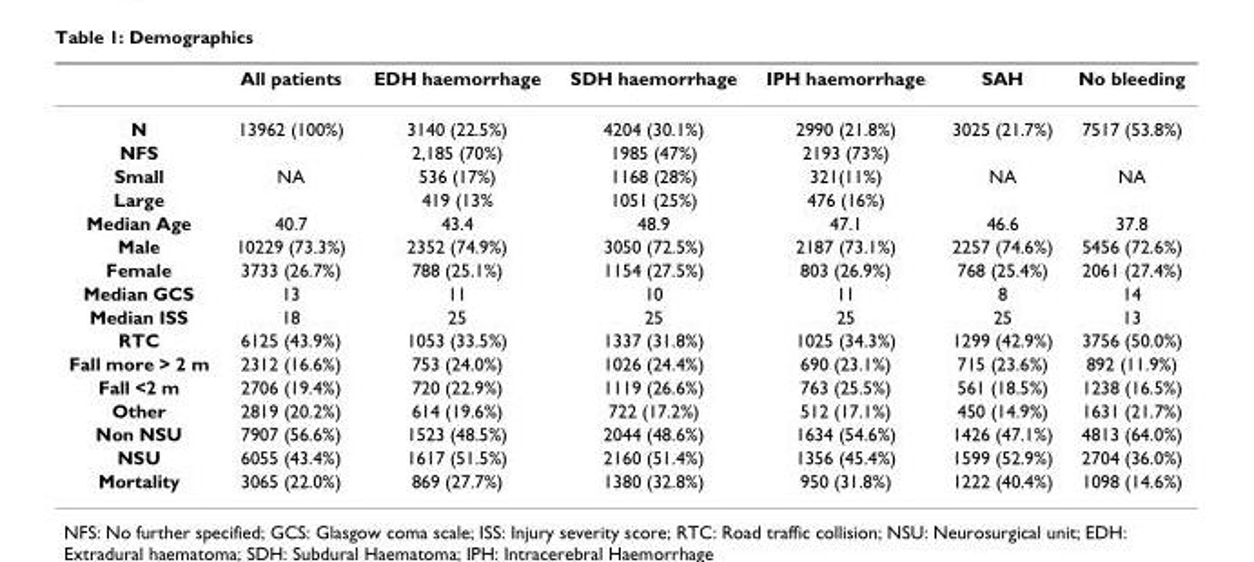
<table><thead><tr><td></td><td>All patients</td><td>EDH haemorrhage</td><td>SDH haemorrhage</td><td>IPH haemorrhage</td><td>SAH</td><td>No bleeding</td></tr></thead><tbody><tr><td>N</td><td>13962 (100%)</td><td>3140 (22.5%)</td><td>4204 (30.1%)</td><td>2990 (21.8%)</td><td>3025 (21.7%)</td><td>7517 (53.8%)</td></tr><tr><td>NFS</td><td></td><td>2,185 (70%)</td><td>1985 (47%)</td><td>2193 (73%)</td><td></td><td></td></tr><tr><td>Small</td><td>NA</td><td>536 (17%)</td><td>1168 (28%)</td><td>321(11%)</td><td>NA</td><td>NA</td></tr><tr><td>Large</td><td></td><td>419 (13%</td><td>1051 (25%)</td><td>476 (16%)</td><td></td><td></td></tr><tr><td>Median Age</td><td>40.7</td><td>43.4</td><td>48.9</td><td>47.1</td><td>46.6</td><td>37.8</td></tr><tr><td>Male</td><td>10229 (73.3%)</td><td>2352 (74.9%)</td><td>3050 (72.5%)</td><td>2187 (73.1%)</td><td>2257 (74.6%)</td><td>5456 (72.6%)</td></tr><tr><td>Female</td><td>3733 (26.7%)</td><td>788 (25.1%)</td><td>1154 (27.5%)</td><td>803 (26.9%)</td><td>768 (25.4%)</td><td>2061 (27.4%)</td></tr><tr><td>Median GCS</td><td>13</td><td>11</td><td>10</td><td>11</td><td>8</td><td>14</td></tr><tr><td>Median ISS</td><td>18</td><td>25</td><td>25</td><td>25</td><td>25</td><td>13</td></tr><tr><td>RTC</td><td>6125 (43.9%)</td><td>1053 (33.5%)</td><td>1337 (31.8%)</td><td>1025 (34.3%)</td><td>1299 (42.9%)</td><td>3756 (50.0%)</td></tr><tr><td>Fall more &gt; 2 m</td><td>2312 (16.6%)</td><td>753 (24.0%)</td><td>1026 (24.4%)</td><td>690 (23.1%)</td><td>715 (23.6%)</td><td>892 (11.9%)</td></tr><tr><td>Fall &lt;2 m</td><td>2706 (19.4%)</td><td>720 (22.9%)</td><td>1119 (26.6%)</td><td>763 (25.5%)</td><td>561 (18.5%)</td><td>1238 (16.5%)</td></tr><tr><td>Other</td><td>2819 (20.2%)</td><td>614 (19.6%)</td><td>722 (17.2%)</td><td>512 (17.1%)</td><td>450 (14.9%)</td><td>1631 (21.7%)</td></tr><tr><td>Non NSU</td><td>7907 (56.6%)</td><td>1523 (48.5%)</td><td>2044 (48.6%)</td><td>1634 (54.6%)</td><td>1426 (47.1%)</td><td>4813 (64.0%)</td></tr><tr><td>NSU</td><td>6055 (43.4%)</td><td>1617 (51.5%)</td><td>2160 (51.4%)</td><td>1356 (45.4%)</td><td>1599 (52.9%)</td><td>2704 (36.0%)</td></tr><tr><td>Mortality</td><td>3065 (22.0%)</td><td>869 (27.7%)</td><td>1380 (32.8%)</td><td>950 (31.8%)</td><td>1222 (40.4%)</td><td>1098 (14.6%)</td></tr></tbody></table>